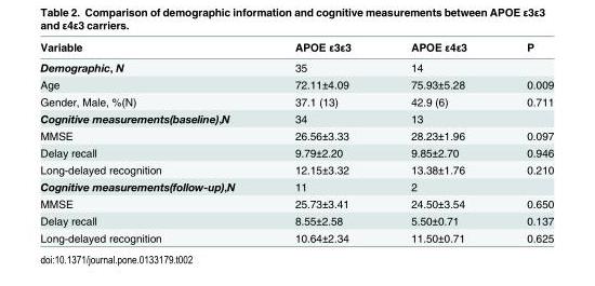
<table><thead><tr><td>Variable</td><td>APOE ε3ε3</td><td>APOE ε4ε3</td><td>P</td></tr></thead><tbody><tr><td>Demographic, N</td><td>35</td><td>14</td><td></td></tr><tr><td>Age</td><td>72.11±4.09</td><td>75.93±5.28</td><td>0.009</td></tr><tr><td>Gender, Male, %(N)</td><td>37.1 (13)</td><td>42.9 (6)</td><td>0.711</td></tr><tr><td>Cognitive measurements(baseline),N</td><td>34</td><td>13</td><td></td></tr><tr><td>MMSE</td><td>26.56±3.33</td><td>28.23±1.96</td><td>0.097</td></tr><tr><td>Delay recall</td><td>9.79±2.20</td><td>9.85±2.70</td><td>0.946</td></tr><tr><td>Long-delayed recognition</td><td>12.15±3.32</td><td>13.38±1.76</td><td>0.210</td></tr><tr><td>Cognitive measurements(follow-up),N</td><td>11</td><td>2</td><td></td></tr><tr><td>MMSE</td><td>25.73±3.41</td><td>24.50±3.54</td><td>0.650</td></tr><tr><td>Delay recall</td><td>8.55±2.58</td><td>5.50±0.71</td><td>0.137</td></tr><tr><td>Long-delayed recognition</td><td>10.64±2.34</td><td>11.50±0.71</td><td>0.625</td></tr></tbody></table>